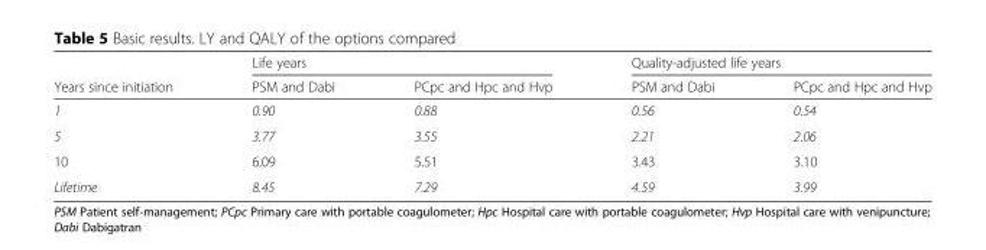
<table><thead><tr><td rowspan="2">Years since initiation</td><td colspan="2">Life years</td><td colspan="2">Quality-adjusted life years</td></tr><tr><td>PSM and Dabi</td><td>PCpc and Hpc and Hvp</td><td>PSM and Dabi</td><td>PCpc and Hpc and Hvp</td></tr></thead><tbody><tr><td>1</td><td>0.90</td><td>0.88</td><td>0.56</td><td>0.54</td></tr><tr><td>5</td><td>3.77</td><td>3.55</td><td>2.21</td><td>2.06</td></tr><tr><td>10</td><td>6.09</td><td>5.51</td><td>3.43</td><td>3.10</td></tr><tr><td>Lifetime</td><td>8.45</td><td>7.29</td><td>4.59</td><td>3.99</td></tr></tbody></table>